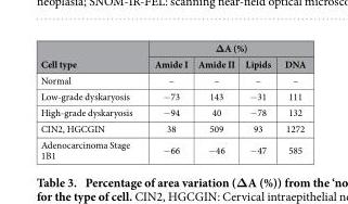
<table><thead><tr><td rowspan="2">Cell type</td><td colspan="4">ΔA (%)</td></tr><tr><td>Amide I</td><td>Amide II</td><td>Lipids</td><td>DNA</td></tr></thead><tbody><tr><td>Normal</td><td>–</td><td>–</td><td>–</td><td>–</td></tr><tr><td>Low-grade dyskaryosis</td><td>−73</td><td>143</td><td>−31</td><td>111</td></tr><tr><td>High-grade dyskaryosis</td><td>−94</td><td>40</td><td>−78</td><td>132</td></tr><tr><td>CIN2, HGCGIN</td><td>38</td><td>509</td><td>93</td><td>1272</td></tr><tr><td>Adenocarcinoma Stage 1B1</td><td>−66</td><td>−46</td><td>−47</td><td>585</td></tr></tbody></table>